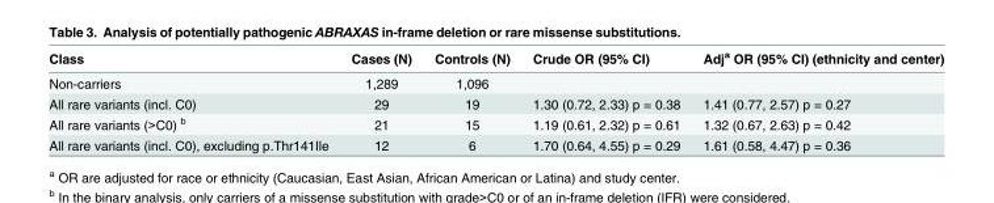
<table><thead><tr><td>Class</td><td>Cases (N)</td><td>Controls (N)</td><td>Crude OR (95% CI)</td><td>Adj<sup>a</sup> OR (95% CI) (ethnicity and center)</td></tr></thead><tbody><tr><td>Non-carriers</td><td>1,289</td><td>1,096</td><td></td><td></td></tr><tr><td>All rare variants (incl. C0)</td><td>29</td><td>19</td><td>1.30 (0.72, 2.33) p = 0.38</td><td>1.41 (0.77, 2.57) p = 0.27</td></tr><tr><td>All rare variants (&gt;C0) <sup>b</sup></td><td>21</td><td>15</td><td>1.19 (0.61, 2.32) p = 0.61</td><td>1.32 (0.67, 2.63) p = 0.42</td></tr><tr><td>All rare variants (incl. C0), excluding p.Thr141Ile</td><td>12</td><td>6</td><td>1.70 (0.64, 4.55) p = 0.29</td><td>1.61 (0.58, 4.47) p = 0.36</td></tr></tbody></table>